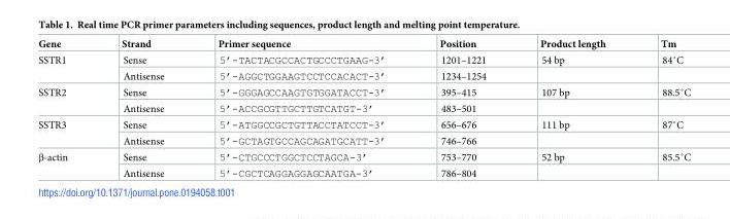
<table><thead><tr><td>Gene</td><td>Strand</td><td>Primer sequence</td><td>Position</td><td>Product length</td><td>Tm</td></tr></thead><tbody><tr><td rowspan="2">SSTR1</td><td>Sense</td><td>5’-TACTACGCCACTGCCCTGAAG-3’</td><td>1201–1221</td><td>54 bp</td><td>84˚C</td></tr><tr><td>Antisense</td><td>5’-AGGCTGGAAGTCCTCCACACT-3’</td><td>1234–1254</td><td></td><td></td></tr><tr><td rowspan="2">SSTR2</td><td>Sense</td><td>5’-GGGAGCCAAGTGTGGATACCT-3’</td><td>395–415</td><td>107 bp</td><td>88.5˚C</td></tr><tr><td>Antisense</td><td>5’-ACCGCGTTGCTTGTCATGT-3’</td><td>483–501</td><td></td><td></td></tr><tr><td rowspan="2">SSTR3</td><td>Sense</td><td>5’-ATGGCCGCTGTTACCTATCCT-3’</td><td>656–676</td><td>111 bp</td><td>87˚C</td></tr><tr><td>Antisense</td><td>5’-GCTAGTGCCAGCAGATGCATT-3’</td><td>746–766</td><td></td><td></td></tr><tr><td rowspan="2">β-actin</td><td>Sense</td><td>5’-CTGCCCTGGCTCCTAGCA-3’</td><td>753–770</td><td>52 bp</td><td>85.5˚C</td></tr><tr><td>Antisense</td><td>5’-CGCTCAGGAGGAGCAATGA-3’</td><td>786–804</td><td></td><td></td></tr></tbody></table>